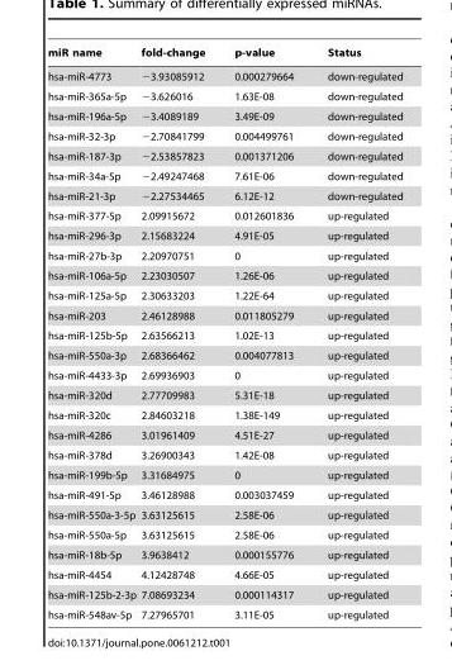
<table><thead><tr><td>miR name</td><td>fold-change</td><td>p-value</td><td>Status</td></tr></thead><tbody><tr><td>hsa-miR-4773</td><td>−3.93085912</td><td>0.000279664</td><td>down-regulated</td></tr><tr><td>hsa-miR-365a-5p</td><td>−3.626016</td><td>1.63E-08</td><td>down-regulated</td></tr><tr><td>hsa-miR-196a-5p</td><td>−3.4089189</td><td>3.49E-09</td><td>down-regulated</td></tr><tr><td>hsa-miR-32-3p</td><td>−2.70841799</td><td>0.004499761</td><td>down-regulated</td></tr><tr><td>hsa-miR-187-3p</td><td>−2.53857823</td><td>0.001371206</td><td>down-regulated</td></tr><tr><td>hsa-miR-34a-5p</td><td>−2.49247468</td><td>7.61E-06</td><td>down-regulated</td></tr><tr><td>hsa-miR-21-3p</td><td>−2.27534465</td><td>6.12E-12</td><td>down-regulated</td></tr><tr><td>hsa-miR-377-5p</td><td>2.09915672</td><td>0.012601836</td><td>up-regulated</td></tr><tr><td>hsa-miR-296-3p</td><td>2.15683224</td><td>4.91E-05</td><td>up-regulated</td></tr><tr><td>hsa-miR-27b-3p</td><td>2.20970751</td><td>0</td><td>up-regulated</td></tr><tr><td>hsa-miR-106a-5p</td><td>2.23030507</td><td>1.26E-06</td><td>up-regulated</td></tr><tr><td>hsa-miR-125a-5p</td><td>2.30633203</td><td>1.22E-64</td><td>up-regulated</td></tr><tr><td>hsa-miR-203</td><td>2.46128988</td><td>0.011805279</td><td>up-regulated</td></tr><tr><td>hsa-miR-125b-5p</td><td>2.63566213</td><td>1.02E-13</td><td>up-regulated</td></tr><tr><td>hsa-miR-550a-3p</td><td>2.68366462</td><td>0.004077813</td><td>up-regulated</td></tr><tr><td>hsa-miR-4433-3p</td><td>2.69936903</td><td>0</td><td>up-regulated</td></tr><tr><td>hsa-miR-320d</td><td>2.77709983</td><td>5.31E-18</td><td>up-regulated</td></tr><tr><td>hsa-miR-320c</td><td>2.84603218</td><td>1.38E-149</td><td>up-regulated</td></tr><tr><td>hsa-miR-4286</td><td>3.01961409</td><td>4.51E-27</td><td>up-regulated</td></tr><tr><td>hsa-miR-378d</td><td>3.26900343</td><td>1.42E-08</td><td>up-regulated</td></tr><tr><td>hsa-miR-199b-5p</td><td>3.31684975</td><td>0</td><td>up-regulated</td></tr><tr><td>hsa-miR-491-5p</td><td>3.46128988</td><td>0.003037459</td><td>up-regulated</td></tr><tr><td>hsa-miR-550a-3-5p</td><td>3.63125615</td><td>2.58E-06</td><td>up-regulated</td></tr><tr><td>hsa-miR-550a-5p</td><td>3.63125615</td><td>2.58E-06</td><td>up-regulated</td></tr><tr><td>hsa-miR-18b-5p</td><td>3.9638412</td><td>0.000155776</td><td>up-regulated</td></tr><tr><td>hsa-miR-4454</td><td>4.12428748</td><td>4.66E-05</td><td>up-regulated</td></tr><tr><td>hsa-miR-125b-2-3p</td><td>7.08693234</td><td>0.000114317</td><td>up-regulated</td></tr><tr><td>hsa-miR-548av-5p</td><td>7.27965701</td><td>3.11E-05</td><td>up-regulated</td></tr></tbody></table>